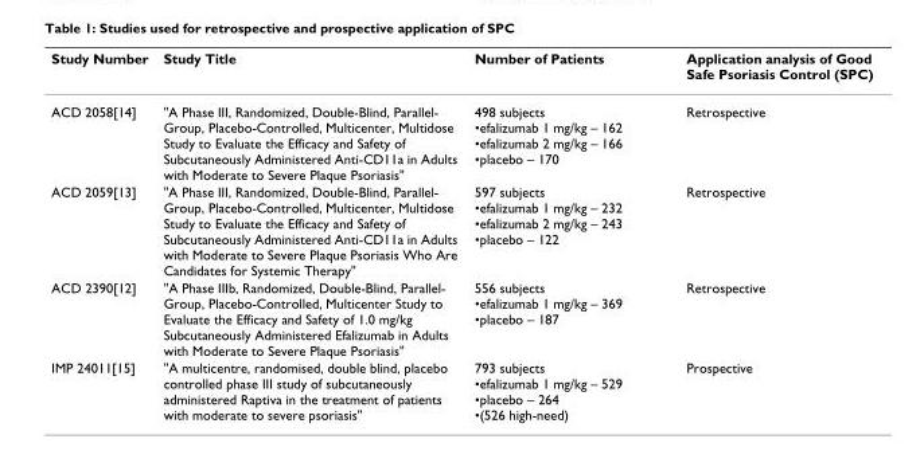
<table><thead><tr><td>Study Number</td><td>Study Title</td><td>Number of Patients</td><td>Application analysis of Good Safe Psoriasis Control (SPC)</td></tr></thead><tbody><tr><td>ACD 2058[14]</td><td>&quot;A Phase III, Randomized, Double-Blind, Parallel- Group, Placebo-Controlled, Multicenter, Multidose Study to Evaluate the Efficacy and Safety of Subcutaneously Administered Anti-CD11a in Adults with Moderate to Severe Plaque Psoriasis&quot;</td><td>498 subjects •efalizumab 1 mg/kg – 162 •efalizumab 2 mg/kg – 166 •placebo – 170</td><td>Retrospective</td></tr><tr><td>ACD 2059[13]</td><td>&quot;A Phase III, Randomized, Double-Blind, Parallel- Group, Placebo-Controlled, Multicenter, Multidose Study to Evaluate the Efficacy and Safety of Subcutaneously Administered Anti-CD11a in Adults with Moderate to Severe Plaque Psoriasis Who Are Candidates for Systemic Therapy&quot;</td><td>597 subjects •efalizumab 1 mg/kg – 232 •efalizumab 2 mg/kg – 243 •placebo – 122</td><td>Retrospective</td></tr><tr><td>ACD 2390[12]</td><td>&quot;A Phase IIIb, Randomized, Double-Blind, Parallel- Group, Placebo-Controlled, Multicenter Study to Evaluate the Efficacy and Safety of 1.0 mg/kg Subcutaneously Administered Efalizumab in Adults with Moderate to Severe Plaque Psoriasis&quot;</td><td>556 subjects •efalizumab 1 mg/kg – 369 •placebo – 187</td><td>Retrospective</td></tr><tr><td>IMP 24011[15]</td><td>&quot;A multicentre, randomised, double blind, placebo controlled phase III study of subcutaneously administered Raptiva in the treatment of patients with moderate to severe psoriasis&quot;</td><td>793 subjects •efalizumab 1 mg/kg – 529 •placebo – 264 •(526 high-need)</td><td>Prospective</td></tr></tbody></table>